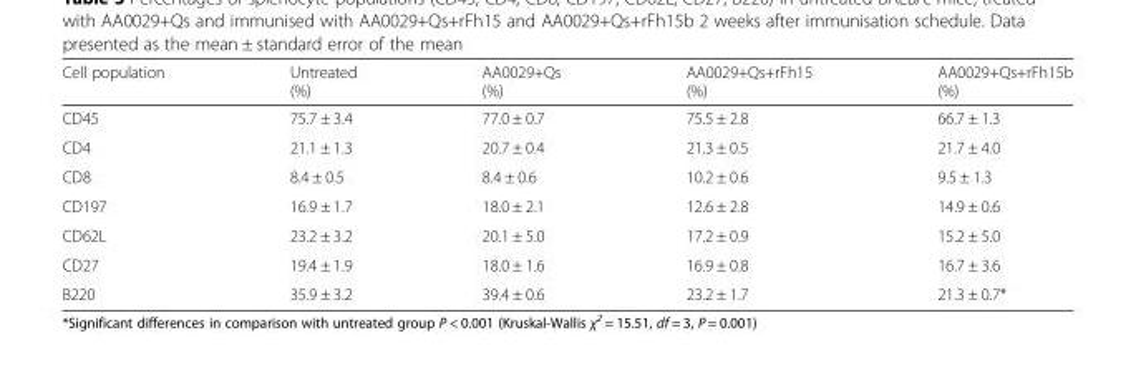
<table><thead><tr><td>Cell population</td><td>Untreated (%)</td><td>AA0029+Qs (%)</td><td>AA0029+Qs+rFh15 (%)</td><td>AA0029+Qs+rFh15b (%)</td></tr></thead><tbody><tr><td>CD45</td><td>75.7 ± 3.4</td><td>77.0 ± 0.7</td><td>75.5 ± 2.8</td><td>66.7 ± 1.3</td></tr><tr><td>CD4</td><td>21.1 ± 1.3</td><td>20.7 ± 0.4</td><td>21.3 ± 0.5</td><td>21.7 ± 4.0</td></tr><tr><td>CD8</td><td>8.4 ± 0.5</td><td>8.4 ± 0.6</td><td>10.2 ± 0.6</td><td>9.5 ± 1.3</td></tr><tr><td>CD197</td><td>16.9 ± 1.7</td><td>18.0 ± 2.1</td><td>12.6 ± 2.8</td><td>14.9 ± 0.6</td></tr><tr><td>CD62L</td><td>23.2 ± 3.2</td><td>20.1 ± 5.0</td><td>17.2 ± 0.9</td><td>15.2 ± 5.0</td></tr><tr><td>CD27</td><td>19.4 ± 1.9</td><td>18.0 ± 1.6</td><td>16.9 ± 0.8</td><td>16.7 ± 3.6</td></tr><tr><td>B220</td><td>35.9 ± 3.2</td><td>39.4 ± 0.6</td><td>23.2 ± 1.7</td><td>21.3 ± 0.7*</td></tr></tbody></table>